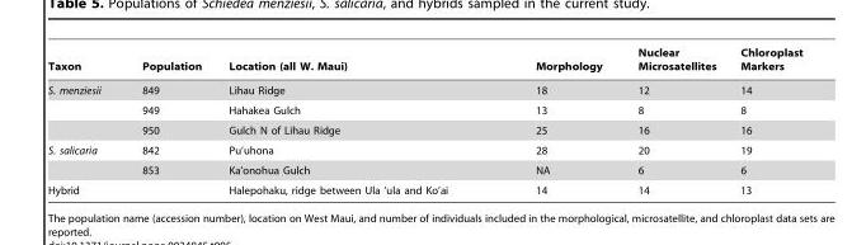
<table><thead><tr><td>Taxon</td><td>Population</td><td>Location (all W. Maui)</td><td>Morphology</td><td>Nuclear Microsatellites</td><td>Chloroplast Markers</td></tr></thead><tbody><tr><td rowspan="3">S. menziesii</td><td>849</td><td>Lihau Ridge</td><td>18</td><td>12</td><td>14</td></tr><tr><td>949</td><td>Hahakea Gulch</td><td>13</td><td>8</td><td>8</td></tr><tr><td>950</td><td>Gulch N of Lihau Ridge</td><td>25</td><td>16</td><td>16</td></tr><tr><td rowspan="2">S. salicaria</td><td>842</td><td>Pu’uhona</td><td>28</td><td>20</td><td>19</td></tr><tr><td>853</td><td>Ka’onohua Gulch</td><td>NA</td><td>6</td><td>6</td></tr><tr><td>Hybrid</td><td></td><td>Halepohaku, ridge between Ula ’ula and Ko’ai</td><td>14</td><td>14</td><td>13</td></tr></tbody></table>